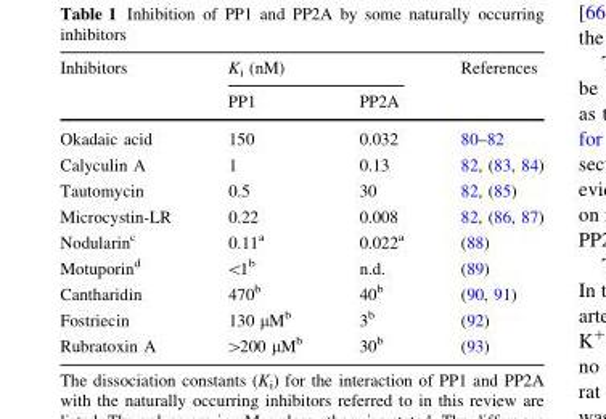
<table><thead><tr><td rowspan="2">Inhibitors</td><td colspan="2">K<sub>i</sub> (nM)</td><td rowspan="2">References</td></tr><tr><td>PP1</td><td>PP2A</td></tr></thead><tbody><tr><td>Okadaic acid</td><td>150</td><td>0.032</td><td>80–82</td></tr><tr><td>Calyculin A</td><td>1</td><td>0.13</td><td>82, (83, 84)</td></tr><tr><td>Tautomycin</td><td>0.5</td><td>30</td><td>82, (85)</td></tr><tr><td>Microcystin-LR</td><td>0.22</td><td>0.008</td><td>82, (86, 87)</td></tr><tr><td>Nodularin<sup>c</sup></td><td>0.11<sup>a</sup></td><td>0.022<sup>a</sup></td><td>(88)</td></tr><tr><td>Motuporin<sup>d</sup></td><td>&lt;1<sup>b</sup></td><td>n.d.</td><td>(89)</td></tr><tr><td>Cantharidin</td><td>470<sup>b</sup></td><td>40<sup>b</sup></td><td>(90, 91)</td></tr><tr><td>Fostriecin</td><td>130 μM<sup>b</sup></td><td>3<sup>b</sup></td><td>(92)</td></tr><tr><td>Rubratoxin A</td><td>&gt;200 μM<sup>b</sup></td><td>30<sup>b</sup></td><td>(93)</td></tr></tbody></table>